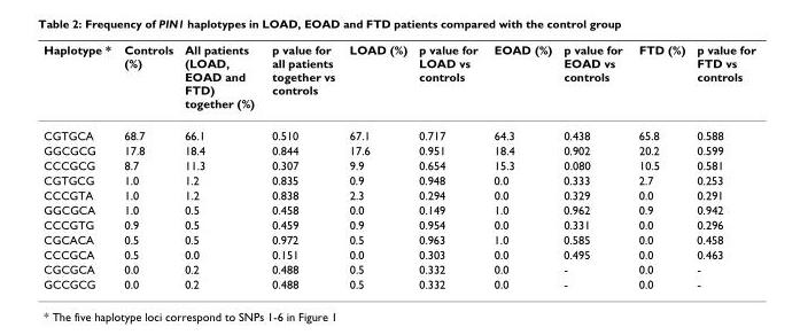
<table><thead><tr><td>Haplotype *</td><td>Controls (%)</td><td>All patients (LOAD, EOAD and FTD) together (%)</td><td>p value for all patients together vs controls</td><td>LOAD (%)</td><td>p value for LOAD vs controls</td><td>EOAD (%)</td><td>p value for EOAD vs controls</td><td>FTD (%)</td><td>p value for FTD vs controls</td></tr></thead><tbody><tr><td>CGTGCA</td><td>68.7</td><td>66.1</td><td>0.510</td><td>67.1</td><td>0.717</td><td>64.3</td><td>0.438</td><td>65.8</td><td>0.588</td></tr><tr><td>GGCGCG</td><td>17.8</td><td>18.4</td><td>0.844</td><td>17.6</td><td>0.951</td><td>18.4</td><td>0.902</td><td>20.2</td><td>0.599</td></tr><tr><td>CCCGCG</td><td>8.7</td><td>11.3</td><td>0.307</td><td>9.9</td><td>0.654</td><td>15.3</td><td>0.080</td><td>10.5</td><td>0.581</td></tr><tr><td>CGTGCG</td><td>1.0</td><td>1.2</td><td>0.835</td><td>0.9</td><td>0.948</td><td>0.0</td><td>0.333</td><td>2.7</td><td>0.253</td></tr><tr><td>CCCGTA</td><td>1.0</td><td>1.2</td><td>0.838</td><td>2.3</td><td>0.294</td><td>0.0</td><td>0.329</td><td>0.0</td><td>0.291</td></tr><tr><td>GGCGCA</td><td>1.0</td><td>0.5</td><td>0.458</td><td>0.0</td><td>0.149</td><td>1.0</td><td>0.962</td><td>0.9</td><td>0.942</td></tr><tr><td>CCCGTG</td><td>0.9</td><td>0.5</td><td>0.459</td><td>0.9</td><td>0.954</td><td>0.0</td><td>0.331</td><td>0.0</td><td>0.296</td></tr><tr><td>CGCACA</td><td>0.5</td><td>0.5</td><td>0.972</td><td>0.5</td><td>0.963</td><td>1.0</td><td>0.585</td><td>0.0</td><td>0.458</td></tr><tr><td>CCCGCA</td><td>0.5</td><td>0.0</td><td>0.151</td><td>0.0</td><td>0.303</td><td>0.0</td><td>0.495</td><td>0.0</td><td>0.463</td></tr><tr><td>CGCGCA</td><td>0.0</td><td>0.2</td><td>0.488</td><td>0.5</td><td>0.332</td><td>0.0</td><td>-</td><td>0.0</td><td>-</td></tr><tr><td>GCCGCG</td><td>0.0</td><td>0.2</td><td>0.488</td><td>0.5</td><td>0.332</td><td>0.0</td><td>-</td><td>0.0</td><td>-</td></tr></tbody></table>